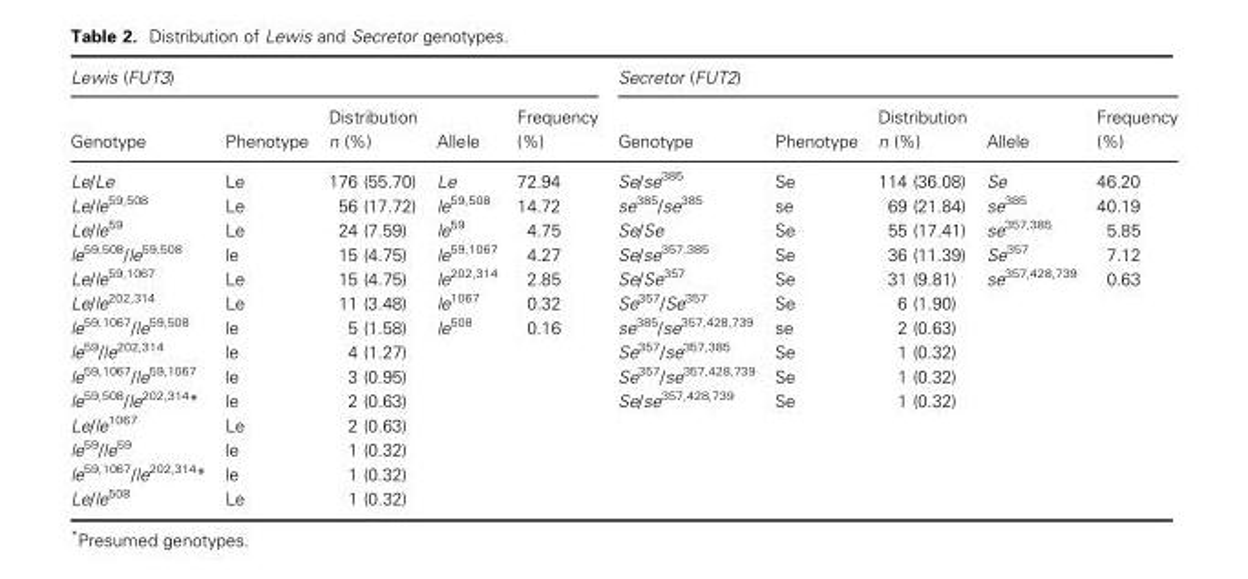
<table><thead><tr><td colspan="5">Lewis (FUT3)</td><td colspan="5">Secretor (FUT2)</td></tr><tr><td>Genotype</td><td>Phenotype</td><td>Distribution n (%)</td><td>Allele</td><td>Frequency (%)</td><td>Genotype</td><td>Phenotype</td><td>Distribution n (%)</td><td>Allele</td><td>Frequency (%)</td></tr></thead><tbody><tr><td>Le/Le</td><td>Le</td><td>176 (55.70)</td><td>Le</td><td>72.94</td><td>Se/se<sup>385</sup></td><td>Se</td><td>114 (36.08)</td><td>Se</td><td>46.20</td></tr><tr><td>Le/le<sup>59,508</sup></td><td>Le</td><td>56 (17.72)</td><td>le<sup>59,508</sup></td><td>14.72</td><td>se<sup>385</sup>/se<sup>385</sup></td><td>se</td><td>69 (21.84)</td><td>se<sup>385</sup></td><td>40.19</td></tr><tr><td>Le/le<sup>59</sup></td><td>Le</td><td>24 (7.59)</td><td>le<sup>59</sup></td><td>4.75</td><td>Se/Se</td><td>Se</td><td>55 (17.41)</td><td>se<sup>357,385</sup></td><td>5.85</td></tr><tr><td>le<sup>59,508</sup>/le<sup>59,508</sup></td><td>le</td><td>15 (4.75)</td><td>le<sup>59,1067</sup></td><td>4.27</td><td>Se/se<sup>357,385</sup></td><td>Se</td><td>36 (11.39)</td><td>Se<sup>357</sup></td><td>7.12</td></tr><tr><td>Le/le<sup>59,1067</sup></td><td>Le</td><td>15 (4.75)</td><td>le<sup>202,314</sup></td><td>2.85</td><td>Se/Se<sup>357</sup></td><td>Se</td><td>31 (9.81)</td><td>se<sup>357,428,739</sup></td><td>0.63</td></tr><tr><td>Le/le<sup>202,314</sup></td><td>Le</td><td>11 (3.48)</td><td>le<sup>1067</sup></td><td>0.32</td><td>Se<sup>357</sup>/Se<sup>357</sup></td><td>Se</td><td>6 (1.90)</td><td></td><td></td></tr><tr><td>le<sup>59,1067</sup>/le<sup>59,508</sup></td><td>le</td><td>5 (1.58)</td><td>le<sup>508</sup></td><td>0.16</td><td>se<sup>385</sup>/se<sup>357,428,739</sup></td><td>se</td><td>2 (0.63)</td><td></td><td></td></tr><tr><td>le<sup>59</sup>/le<sup>202,314</sup></td><td>le</td><td>4 (1.27)</td><td></td><td></td><td>Se<sup>357</sup>/se<sup>357,385</sup></td><td>Se</td><td>1 (0.32)</td><td></td><td></td></tr><tr><td>le<sup>59,1067</sup>/le<sup>59,1067</sup></td><td>le</td><td>3 (0.95)</td><td></td><td></td><td>Se<sup>357</sup>/se<sup>357,428,739</sup></td><td>Se</td><td>1 (0.32)</td><td></td><td></td></tr><tr><td>le<sup>59,508</sup>/le<sup>202,314</sup>*</td><td>le</td><td>2 (0.63)</td><td></td><td></td><td>Se/se<sup>357,428,739</sup></td><td>Se</td><td>1 (0.32)</td><td></td><td></td></tr><tr><td>Le/le<sup>1067</sup></td><td>Le</td><td>2 (0.63)</td><td></td><td></td><td></td><td></td><td></td><td></td><td></td></tr><tr><td>le<sup>59</sup>/le<sup>59</sup></td><td>le</td><td>1 (0.32)</td><td></td><td></td><td></td><td></td><td></td><td></td><td></td></tr><tr><td>le<sup>59,1067</sup>/le<sup>202,314</sup>*</td><td>le</td><td>1 (0.32)</td><td></td><td></td><td></td><td></td><td></td><td></td><td></td></tr><tr><td>Le/le<sup>508</sup></td><td>Le</td><td>1 (0.32)</td><td></td><td></td><td></td><td></td><td></td><td></td><td></td></tr></tbody></table>